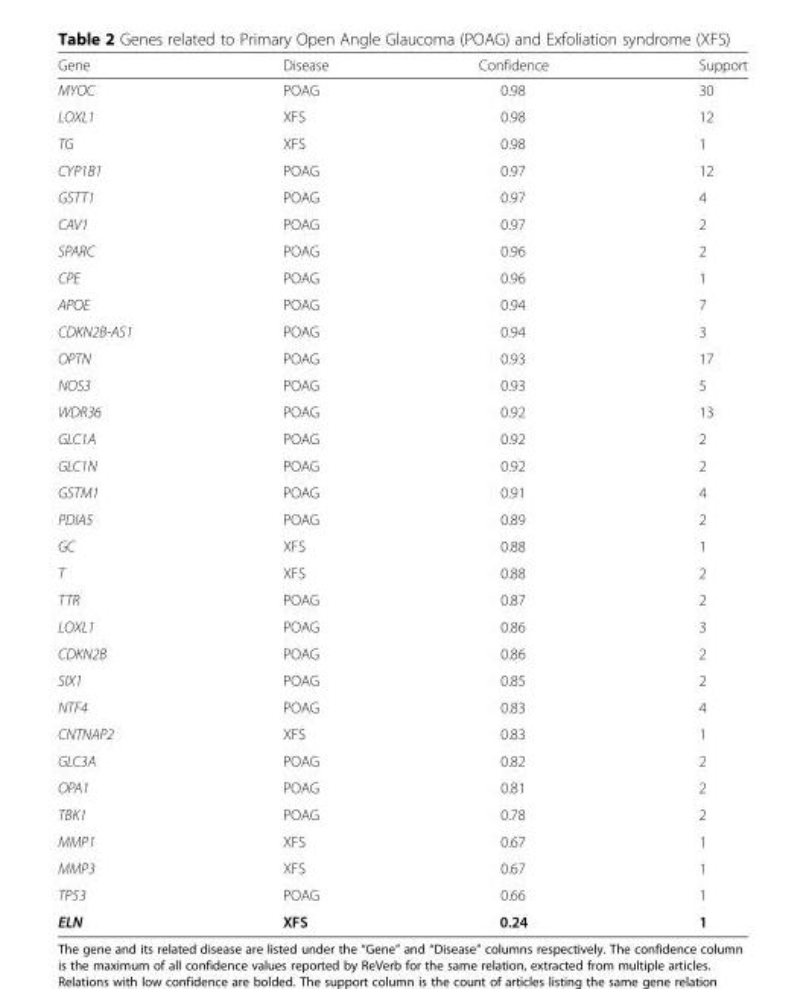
<table><thead><tr><td>Gene</td><td>Disease</td><td>Confidence</td><td>Support</td></tr></thead><tbody><tr><td>MYOC</td><td>POAG</td><td>0.98</td><td>30</td></tr><tr><td>LOXL1</td><td>XFS</td><td>0.98</td><td>12</td></tr><tr><td>TG</td><td>XFS</td><td>0.98</td><td>1</td></tr><tr><td>CYP1B1</td><td>POAG</td><td>0.97</td><td>12</td></tr><tr><td>GSTT1</td><td>POAG</td><td>0.97</td><td>4</td></tr><tr><td>CAV1</td><td>POAG</td><td>0.97</td><td>2</td></tr><tr><td>SPARC</td><td>POAG</td><td>0.96</td><td>2</td></tr><tr><td>CPE</td><td>POAG</td><td>0.96</td><td>1</td></tr><tr><td>APOE</td><td>POAG</td><td>0.94</td><td>7</td></tr><tr><td>CDKN2B-AS1</td><td>POAG</td><td>0.94</td><td>3</td></tr><tr><td>OPTN</td><td>POAG</td><td>0.93</td><td>17</td></tr><tr><td>NOS3</td><td>POAG</td><td>0.93</td><td>5</td></tr><tr><td>WDR36</td><td>POAG</td><td>0.92</td><td>13</td></tr><tr><td>GLC1A</td><td>POAG</td><td>0.92</td><td>2</td></tr><tr><td>GLC1N</td><td>POAG</td><td>0.92</td><td>2</td></tr><tr><td>GSTM1</td><td>POAG</td><td>0.91</td><td>4</td></tr><tr><td>PDIA5</td><td>POAG</td><td>0.89</td><td>2</td></tr><tr><td>GC</td><td>XFS</td><td>0.88</td><td>1</td></tr><tr><td>T</td><td>XFS</td><td>0.88</td><td>2</td></tr><tr><td>TTR</td><td>POAG</td><td>0.87</td><td>2</td></tr><tr><td>LOXL1</td><td>POAG</td><td>0.86</td><td>3</td></tr><tr><td>CDKN2B</td><td>POAG</td><td>0.86</td><td>2</td></tr><tr><td>SIX1</td><td>POAG</td><td>0.85</td><td>2</td></tr><tr><td>NTF4</td><td>POAG</td><td>0.83</td><td>4</td></tr><tr><td>CNTNAP2</td><td>XFS</td><td>0.83</td><td>1</td></tr><tr><td>GLC3A</td><td>POAG</td><td>0.82</td><td>2</td></tr><tr><td>OPA1</td><td>POAG</td><td>0.81</td><td>2</td></tr><tr><td>TBK1</td><td>POAG</td><td>0.78</td><td>2</td></tr><tr><td>MMP1</td><td>XFS</td><td>0.67</td><td>1</td></tr><tr><td>MMP3</td><td>XFS</td><td>0.67</td><td>1</td></tr><tr><td>TP53</td><td>POAG</td><td>0.66</td><td>1</td></tr><tr><td>ELN</td><td>XFS</td><td>0.24</td><td>1</td></tr></tbody></table>